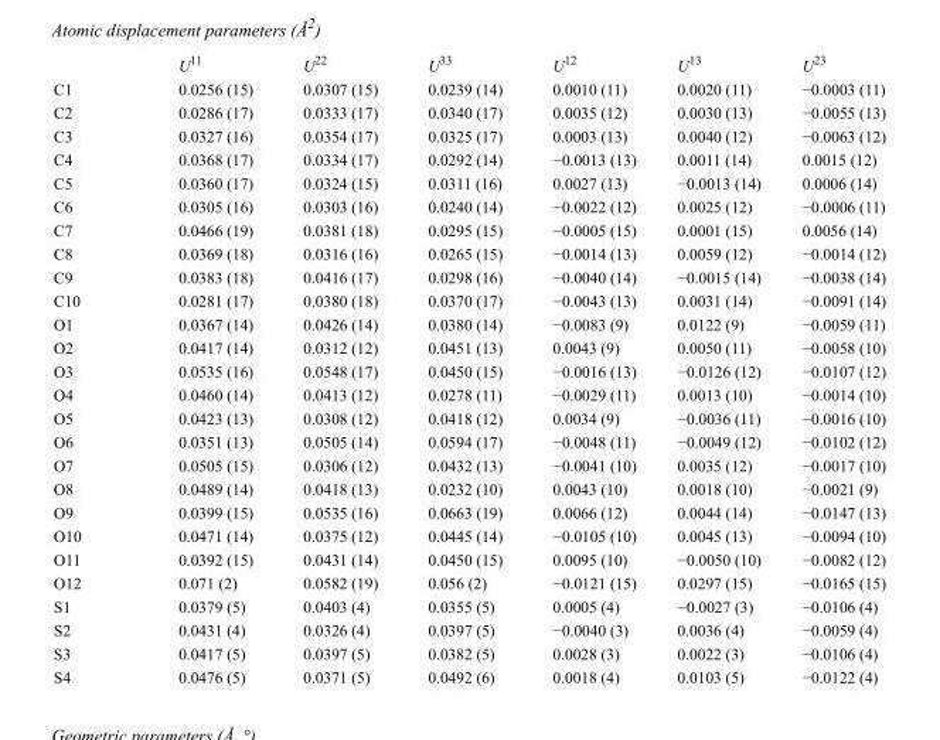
<table><thead><tr><td></td><td>U<sup>11</sup></td><td>U<sup>22</sup></td><td>U<sup>33</sup></td><td>U<sup>12</sup></td><td>U<sup>13</sup></td><td>U<sup>23</sup></td></tr></thead><tbody><tr><td>C1</td><td>0.0256 (15)</td><td>0.0307 (15)</td><td>0.0239 (14)</td><td>0.0010 (11)</td><td>0.0020 (11)</td><td>−0.0003 (11)</td></tr><tr><td>C2</td><td>0.0286 (17)</td><td>0.0333 (17)</td><td>0.0340 (17)</td><td>0.0035 (12)</td><td>0.0030 (13)</td><td>−0.0055 (13)</td></tr><tr><td>C3</td><td>0.0327 (16)</td><td>0.0354 (17)</td><td>0.0325 (17)</td><td>0.0003 (13)</td><td>0.0040 (12)</td><td>−0.0063 (12)</td></tr><tr><td>C4</td><td>0.0368 (17)</td><td>0.0334 (17)</td><td>0.0292 (14)</td><td>−0.0013 (13)</td><td>0.0011 (14)</td><td>0.0015 (12)</td></tr><tr><td>C5</td><td>0.0360 (17)</td><td>0.0324 (15)</td><td>0.0311 (16)</td><td>0.0027 (13)</td><td>−0.0013 (14)</td><td>0.0006 (14)</td></tr><tr><td>C6</td><td>0.0305 (16)</td><td>0.0303 (16)</td><td>0.0240 (14)</td><td>−0.0022 (12)</td><td>0.0025 (12)</td><td>−0.0006 (11)</td></tr><tr><td>C7</td><td>0.0466 (19)</td><td>0.0381 (18)</td><td>0.0295 (15)</td><td>−0.0005 (15)</td><td>0.0001 (15)</td><td>0.0056 (14)</td></tr><tr><td>C8</td><td>0.0369 (18)</td><td>0.0316 (16)</td><td>0.0265 (15)</td><td>−0.0014 (13)</td><td>0.0059 (12)</td><td>−0.0014 (12)</td></tr><tr><td>C9</td><td>0.0383 (18)</td><td>0.0416 (17)</td><td>0.0298 (16)</td><td>−0.0040 (14)</td><td>−0.0015 (14)</td><td>−0.0038 (14)</td></tr><tr><td>C10</td><td>0.0281 (17)</td><td>0.0380 (18)</td><td>0.0370 (17)</td><td>−0.0043 (13)</td><td>0.0031 (14)</td><td>−0.0091 (14)</td></tr><tr><td>O1</td><td>0.0367 (14)</td><td>0.0426 (14)</td><td>0.0380 (14)</td><td>−0.0083 (9)</td><td>0.0122 (9)</td><td>−0.0059 (11)</td></tr><tr><td>O2</td><td>0.0417 (14)</td><td>0.0312 (12)</td><td>0.0451 (13)</td><td>0.0043 (9)</td><td>0.0050 (11)</td><td>−0.0058 (10)</td></tr><tr><td>O3</td><td>0.0535 (16)</td><td>0.0548 (17)</td><td>0.0450 (15)</td><td>−0.0016 (13)</td><td>−0.0126 (12)</td><td>−0.0107 (12)</td></tr><tr><td>O4</td><td>0.0460 (14)</td><td>0.0413 (12)</td><td>0.0278 (11)</td><td>−0.0029 (11)</td><td>0.0013 (10)</td><td>−0.0014 (10)</td></tr><tr><td>O5</td><td>0.0423 (13)</td><td>0.0308 (12)</td><td>0.0418 (12)</td><td>0.0034 (9)</td><td>−0.0036 (11)</td><td>−0.0016 (10)</td></tr><tr><td>O6</td><td>0.0351 (13)</td><td>0.0505 (14)</td><td>0.0594 (17)</td><td>−0.0048 (11)</td><td>−0.0049 (12)</td><td>−0.0102 (12)</td></tr><tr><td>O7</td><td>0.0505 (15)</td><td>0.0306 (12)</td><td>0.0432 (13)</td><td>−0.0041 (10)</td><td>0.0035 (12)</td><td>−0.0017 (10)</td></tr><tr><td>O8</td><td>0.0489 (14)</td><td>0.0418 (13)</td><td>0.0232 (10)</td><td>0.0043 (10)</td><td>0.0018 (10)</td><td>−0.0021 (9)</td></tr><tr><td>O9</td><td>0.0399 (15)</td><td>0.0535 (16)</td><td>0.0663 (19)</td><td>0.0066 (12)</td><td>0.0044 (14)</td><td>−0.0147 (13)</td></tr><tr><td>O10</td><td>0.0471 (14)</td><td>0.0375 (12)</td><td>0.0445 (14)</td><td>−0.0105 (10)</td><td>0.0045 (13)</td><td>−0.0094 (10)</td></tr><tr><td>O11</td><td>0.0392 (15)</td><td>0.0431 (14)</td><td>0.0450 (15)</td><td>0.0095 (10)</td><td>−0.0050 (10)</td><td>−0.0082 (12)</td></tr><tr><td>O12</td><td>0.071 (2)</td><td>0.0582 (19)</td><td>0.056 (2)</td><td>−0.0121 (15)</td><td>0.0297 (15)</td><td>−0.0165 (15)</td></tr><tr><td>S1</td><td>0.0379 (5)</td><td>0.0403 (4)</td><td>0.0355 (5)</td><td>0.0005 (4)</td><td>−0.0027 (3)</td><td>−0.0106 (4)</td></tr><tr><td>S2</td><td>0.0431 (4)</td><td>0.0326 (4)</td><td>0.0397 (5)</td><td>−0.0040 (3)</td><td>0.0036 (4)</td><td>−0.0059 (4)</td></tr><tr><td>S3</td><td>0.0417 (5)</td><td>0.0397 (5)</td><td>0.0382 (5)</td><td>0.0028 (3)</td><td>0.0022 (3)</td><td>−0.0106 (4)</td></tr><tr><td>S4</td><td>0.0476 (5)</td><td>0.0371 (5)</td><td>0.0492 (6)</td><td>0.0018 (4)</td><td>0.0103 (5)</td><td>−0.0122 (4)</td></tr></tbody></table>